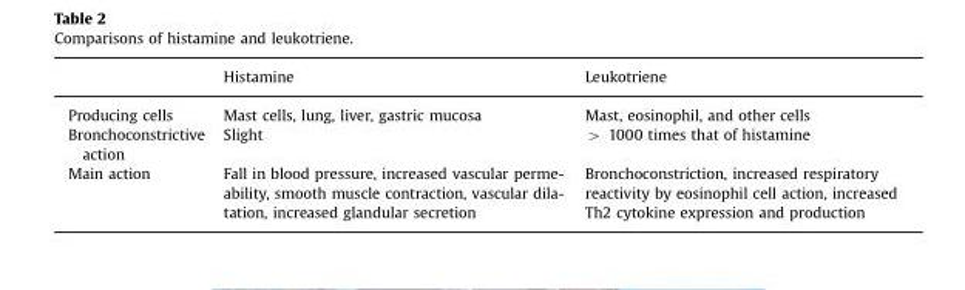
<table><thead><tr><td></td><td>Histamine</td><td>Leukotriene</td></tr></thead><tbody><tr><td>Producing cells</td><td>Mast cells, lung, liver, gastric mucosa</td><td>Mast, eosinophil, and other cells</td></tr><tr><td>Bronchoconstrictive action</td><td>Slight</td><td>&gt; 1000 times that of histamine</td></tr><tr><td>Main action</td><td>Fall in blood pressure, increased vascular perme- ability, smooth muscle contraction, vascular dila- tation, increased glandular secretion</td><td>Bronchoconstriction, increased respiratory reactivity by eosinophil cell action, increased Th2 cytokine expression and production</td></tr></tbody></table>